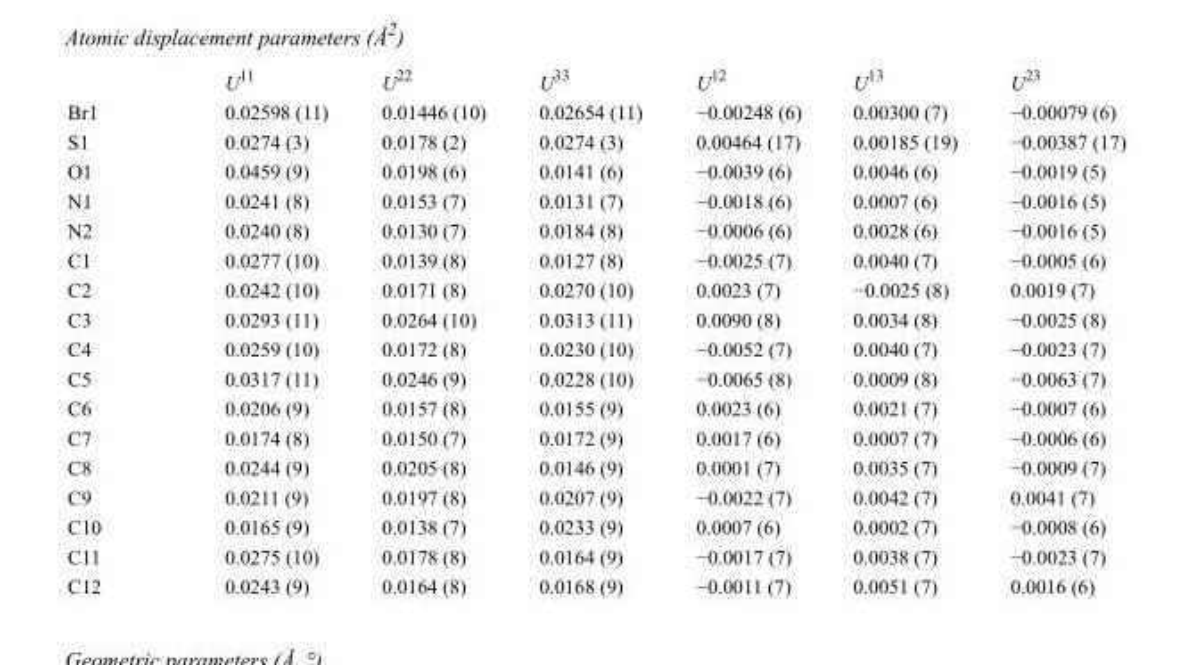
<table><thead><tr><td></td><td>U<sup>11</sup></td><td>U<sup>22</sup></td><td>U<sup>33</sup></td><td>U<sup>12</sup></td><td>U<sup>13</sup></td><td>U<sup>23</sup></td></tr></thead><tbody><tr><td>Br1</td><td>0.02598 (11)</td><td>0.01446 (10)</td><td>0.02654 (11)</td><td>−0.00248 (6)</td><td>0.00300 (7)</td><td>−0.00079 (6)</td></tr><tr><td>S1</td><td>0.0274 (3)</td><td>0.0178 (2)</td><td>0.0274 (3)</td><td>0.00464 (17)</td><td>0.00185 (19)</td><td>−0.00387 (17)</td></tr><tr><td>O1</td><td>0.0459 (9)</td><td>0.0198 (6)</td><td>0.0141 (6)</td><td>−0.0039 (6)</td><td>0.0046 (6)</td><td>−0.0019 (5)</td></tr><tr><td>N1</td><td>0.0241 (8)</td><td>0.0153 (7)</td><td>0.0131 (7)</td><td>−0.0018 (6)</td><td>0.0007 (6)</td><td>−0.0016 (5)</td></tr><tr><td>N2</td><td>0.0240 (8)</td><td>0.0130 (7)</td><td>0.0184 (8)</td><td>−0.0006 (6)</td><td>0.0028 (6)</td><td>−0.0016 (5)</td></tr><tr><td>C1</td><td>0.0277 (10)</td><td>0.0139 (8)</td><td>0.0127 (8)</td><td>−0.0025 (7)</td><td>0.0040 (7)</td><td>−0.0005 (6)</td></tr><tr><td>C2</td><td>0.0242 (10)</td><td>0.0171 (8)</td><td>0.0270 (10)</td><td>0.0023 (7)</td><td>−0.0025 (8)</td><td>0.0019 (7)</td></tr><tr><td>C3</td><td>0.0293 (11)</td><td>0.0264 (10)</td><td>0.0313 (11)</td><td>0.0090 (8)</td><td>0.0034 (8)</td><td>−0.0025 (8)</td></tr><tr><td>C4</td><td>0.0259 (10)</td><td>0.0172 (8)</td><td>0.0230 (10)</td><td>−0.0052 (7)</td><td>0.0040 (7)</td><td>−0.0023 (7)</td></tr><tr><td>C5</td><td>0.0317 (11)</td><td>0.0246 (9)</td><td>0.0228 (10)</td><td>−0.0065 (8)</td><td>0.0009 (8)</td><td>−0.0063 (7)</td></tr><tr><td>C6</td><td>0.0206 (9)</td><td>0.0157 (8)</td><td>0.0155 (9)</td><td>0.0023 (6)</td><td>0.0021 (7)</td><td>−0.0007 (6)</td></tr><tr><td>C7</td><td>0.0174 (8)</td><td>0.0150 (7)</td><td>0.0172 (9)</td><td>0.0017 (6)</td><td>0.0007 (7)</td><td>−0.0006 (6)</td></tr><tr><td>C8</td><td>0.0244 (9)</td><td>0.0205 (8)</td><td>0.0146 (9)</td><td>0.0001 (7)</td><td>0.0035 (7)</td><td>−0.0009 (7)</td></tr><tr><td>C9</td><td>0.0211 (9)</td><td>0.0197 (8)</td><td>0.0207 (9)</td><td>−0.0022 (7)</td><td>0.0042 (7)</td><td>0.0041 (7)</td></tr><tr><td>C10</td><td>0.0165 (9)</td><td>0.0138 (7)</td><td>0.0233 (9)</td><td>0.0007 (6)</td><td>0.0002 (7)</td><td>−0.0008 (6)</td></tr><tr><td>C11</td><td>0.0275 (10)</td><td>0.0178 (8)</td><td>0.0164 (9)</td><td>−0.0017 (7)</td><td>0.0038 (7)</td><td>−0.0023 (7)</td></tr><tr><td>C12</td><td>0.0243 (9)</td><td>0.0164 (8)</td><td>0.0168 (9)</td><td>−0.0011 (7)</td><td>0.0051 (7)</td><td>0.0016 (6)</td></tr></tbody></table>